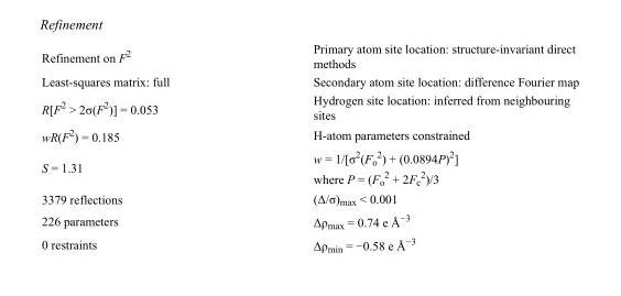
<table><tbody><tr><td>Refinement on F<sup>2</sup></td><td>Primary atom site location: structure-invariant direct methods</td></tr><tr><td>Least-squares matrix: full</td><td>Secondary atom site location: difference Fourier map</td></tr><tr><td>R[F<sup>2</sup> &gt; 2σ(F<sup>2</sup>)] = 0.053</td><td>Hydrogen site location: inferred from neighbouring sites</td></tr><tr><td>wR(F<sup>2</sup>) = 0.185</td><td>H-atom parameters constrained</td></tr><tr><td>S = 1.31</td><td>w = 1/[σ<sup>2</sup>(F<sub>o</sub> <sup>2</sup>) + (0.0894P)<sup>2</sup>] where P = (F<sub>o</sub> <sup>2</sup> + 2F<sub>c</sub> <sup>2</sup>)/3</td></tr><tr><td>3379 reflections</td><td>(Δ/σ)<sub>max</sub> &lt; 0.001</td></tr><tr><td>226 parameters</td><td>Δρ<sub>max</sub> = 0.74 e Å<sup>−3</sup></td></tr><tr><td>0 restraints</td><td>Δρ<sub>min</sub> = −0.58 e Å<sup>−3</sup></td></tr></tbody></table>